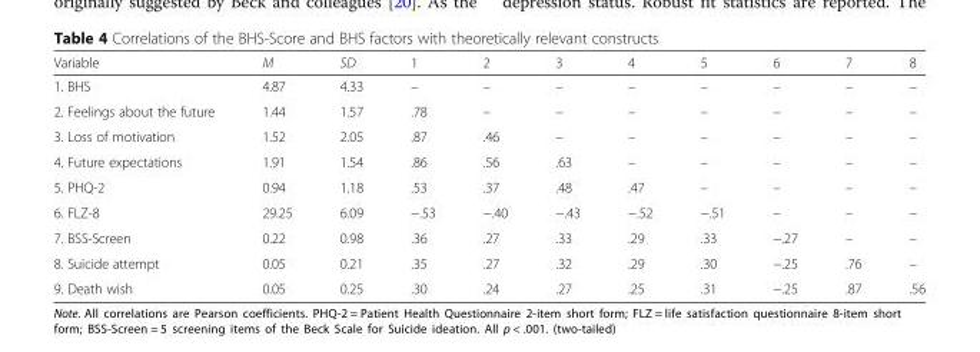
<table><thead><tr><td>Variable</td><td>M</td><td>SD</td><td>1</td><td>2</td><td>3</td><td>4</td><td>5</td><td>6</td><td>7</td><td>8</td></tr></thead><tbody><tr><td>1. BHS</td><td>4.87</td><td>4.33</td><td>–</td><td>–</td><td>–</td><td>–</td><td>–</td><td>–</td><td>–</td><td>–</td></tr><tr><td>2. Feelings about the future</td><td>1.44</td><td>1.57</td><td>.78</td><td>–</td><td>–</td><td>–</td><td>–</td><td>–</td><td>–</td><td>–</td></tr><tr><td>3. Loss of motivation</td><td>1.52</td><td>2.05</td><td>.87</td><td>.46</td><td>–</td><td>–</td><td>–</td><td>–</td><td>–</td><td>–</td></tr><tr><td>4. Future expectations</td><td>1.91</td><td>1.54</td><td>.86</td><td>.56</td><td>.63</td><td>–</td><td>–</td><td>–</td><td>–</td><td>–</td></tr><tr><td>5. PHQ-2</td><td>0.94</td><td>1.18</td><td>.53</td><td>.37</td><td>.48</td><td>.47</td><td>–</td><td>–</td><td>–</td><td>–</td></tr><tr><td>6. FLZ-8</td><td>29.25</td><td>6.09</td><td>−.53</td><td>−.40</td><td>−.43</td><td>−.52</td><td>−.51</td><td>–</td><td>–</td><td>–</td></tr><tr><td>7. BSS-Screen</td><td>0.22</td><td>0.98</td><td>.36</td><td>.27</td><td>.33</td><td>.29</td><td>.33</td><td>−.27</td><td>–</td><td>–</td></tr><tr><td>8. Suicide attempt</td><td>0.05</td><td>0.21</td><td>.35</td><td>.27</td><td>.32</td><td>.29</td><td>.30</td><td>−.25</td><td>.76</td><td>–</td></tr><tr><td>9. Death wish</td><td>0.05</td><td>0.25</td><td>.30</td><td>.24</td><td>.27</td><td>.25</td><td>.31</td><td>−.25</td><td>.87</td><td>.56</td></tr></tbody></table>